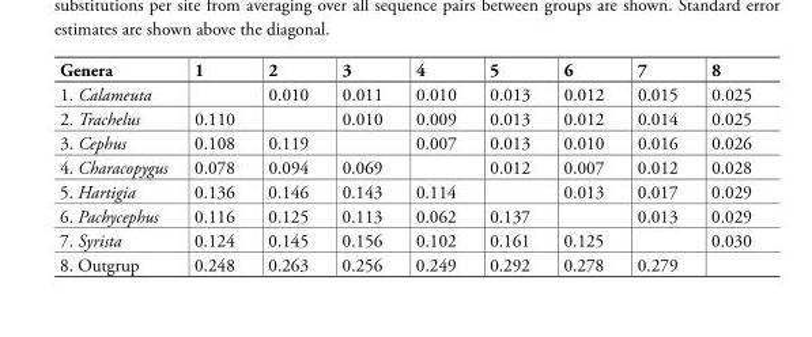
<table><thead><tr><td>Genera</td><td>1</td><td>2</td><td>3</td><td>4</td><td>5</td><td>6</td><td>7</td><td>8</td></tr></thead><tbody><tr><td>1. Calameuta</td><td></td><td>0.010</td><td>0.011</td><td>0.010</td><td>0.013</td><td>0.012</td><td>0.015</td><td>0.025</td></tr><tr><td>2. Trachelus</td><td>0.110</td><td></td><td>0.010</td><td>0.009</td><td>0.013</td><td>0.012</td><td>0.014</td><td>0.025</td></tr><tr><td>3. Cephus</td><td>0.108</td><td>0.119</td><td></td><td>0.007</td><td>0.013</td><td>0.010</td><td>0.016</td><td>0.026</td></tr><tr><td>4. Characopygus</td><td>0.078</td><td>0.094</td><td>0.069</td><td></td><td>0.012</td><td>0.007</td><td>0.012</td><td>0.028</td></tr><tr><td>5. Hartigia</td><td>0.136</td><td>0.146</td><td>0.143</td><td>0.114</td><td></td><td>0.013</td><td>0.017</td><td>0.029</td></tr><tr><td>6. Pachycephus</td><td>0.116</td><td>0.125</td><td>0.113</td><td>0.062</td><td>0.137</td><td></td><td>0.013</td><td>0.029</td></tr><tr><td>7. Syrista</td><td>0.124</td><td>0.145</td><td>0.156</td><td>0.102</td><td>0.161</td><td>0.125</td><td></td><td>0.030</td></tr><tr><td>8. Outgrup</td><td>0.248</td><td>0.263</td><td>0.256</td><td>0.249</td><td>0.292</td><td>0.278</td><td>0.279</td><td></td></tr></tbody></table>